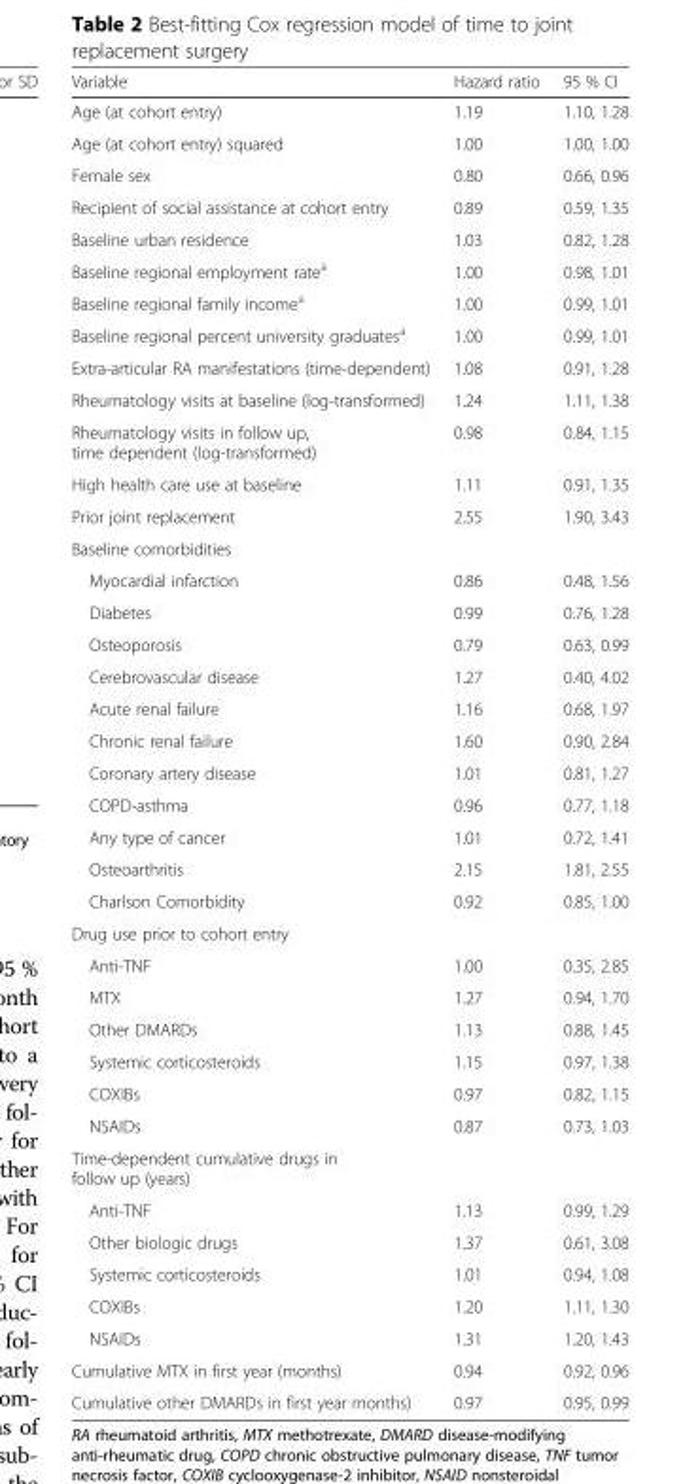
<table><thead><tr><td>Variable</td><td>Hazard ratio</td><td>95 % CI</td></tr></thead><tbody><tr><td>Age (at cohort entry)</td><td>1.19</td><td>1.10, 1.28</td></tr><tr><td>Age (at cohort entry) squared</td><td>1.00</td><td>1.00, 1.00</td></tr><tr><td>Female sex</td><td>0.80</td><td>0.66, 0.96</td></tr><tr><td>Recipient of social assistance at cohort entry</td><td>0.89</td><td>0.59, 1.35</td></tr><tr><td>Baseline urban residence</td><td>1.03</td><td>0.82, 1.28</td></tr><tr><td>Baseline regional employment rate<sup>a</sup></td><td>1.00</td><td>0.98, 1.01</td></tr><tr><td>Baseline regional family income<sup>a</sup></td><td>1.00</td><td>0.99, 1.01</td></tr><tr><td>Baseline regional percent university graduates<sup>a</sup></td><td>1.00</td><td>0.99, 1.01</td></tr><tr><td>Extra-articular RA manifestations (time-dependent)</td><td>1.08</td><td>0.91, 1.28</td></tr><tr><td>Rheumatology visits at baseline (log-transformed)</td><td>1.24</td><td>1.11, 1.38</td></tr><tr><td>Rheumatology visits in follow up, time dependent (log-transformed)</td><td>0.98</td><td>0.84, 1.15</td></tr><tr><td>High health care use at baseline</td><td>1.11</td><td>0.91, 1.35</td></tr><tr><td>Prior joint replacement</td><td>2.55</td><td>1.90, 3.43</td></tr><tr><td colspan="3">Baseline comorbidities</td></tr><tr><td>Myocardial infarction</td><td>0.86</td><td>0.48, 1.56</td></tr><tr><td>Diabetes</td><td>0.99</td><td>0.76, 1.28</td></tr><tr><td>Osteoporosis</td><td>0.79</td><td>0.63, 0.99</td></tr><tr><td>Cerebrovascular disease</td><td>1.27</td><td>0.40, 4.02</td></tr><tr><td>Acute renal failure</td><td>1.16</td><td>0.68, 1.97</td></tr><tr><td>Chronic renal failure</td><td>1.60</td><td>0.90, 2.84</td></tr><tr><td>Coronary artery disease</td><td>1.01</td><td>0.81, 1.27</td></tr><tr><td>COPD-asthma</td><td>0.96</td><td>0.77, 1.18</td></tr><tr><td>Any type of cancer</td><td>1.01</td><td>0.72, 1.41</td></tr><tr><td>Osteoarthritis</td><td>2.15</td><td>1.81, 2.55</td></tr><tr><td>Charlson Comorbidity</td><td>0.92</td><td>0.85, 1.00</td></tr><tr><td colspan="3">Drug use prior to cohort entry</td></tr><tr><td>Anti-TNF</td><td>1.00</td><td>0.35, 2.85</td></tr><tr><td>MTX</td><td>1.27</td><td>0.94, 1.70</td></tr><tr><td>Other DMARDs</td><td>1.13</td><td>0.88, 1.45</td></tr><tr><td>Systemic corticosteroids</td><td>1.15</td><td>0.97, 1.38</td></tr><tr><td>COXIBs</td><td>0.97</td><td>0.82, 1.15</td></tr><tr><td>NSAIDs</td><td>0.87</td><td>0.73, 1.03</td></tr><tr><td colspan="3">Time-dependent cumulative drugs in follow up (years)</td></tr><tr><td>Anti-TNF</td><td>1.13</td><td>0.99, 1.29</td></tr><tr><td>Other biologic drugs</td><td>1.37</td><td>0.61, 3.08</td></tr><tr><td>Systemic corticosteroids</td><td>1.01</td><td>0.94, 1.08</td></tr><tr><td>COXIBs</td><td>1.20</td><td>1.11, 1.30</td></tr><tr><td>NSAIDs</td><td>1.31</td><td>1.20, 1.43</td></tr><tr><td>Cumulative MTX in first year (months)</td><td>0.94</td><td>0.92, 0.96</td></tr><tr><td>Cumulative other DMARDs in first year months)</td><td>0.97</td><td>0.95, 0.99</td></tr></tbody></table>